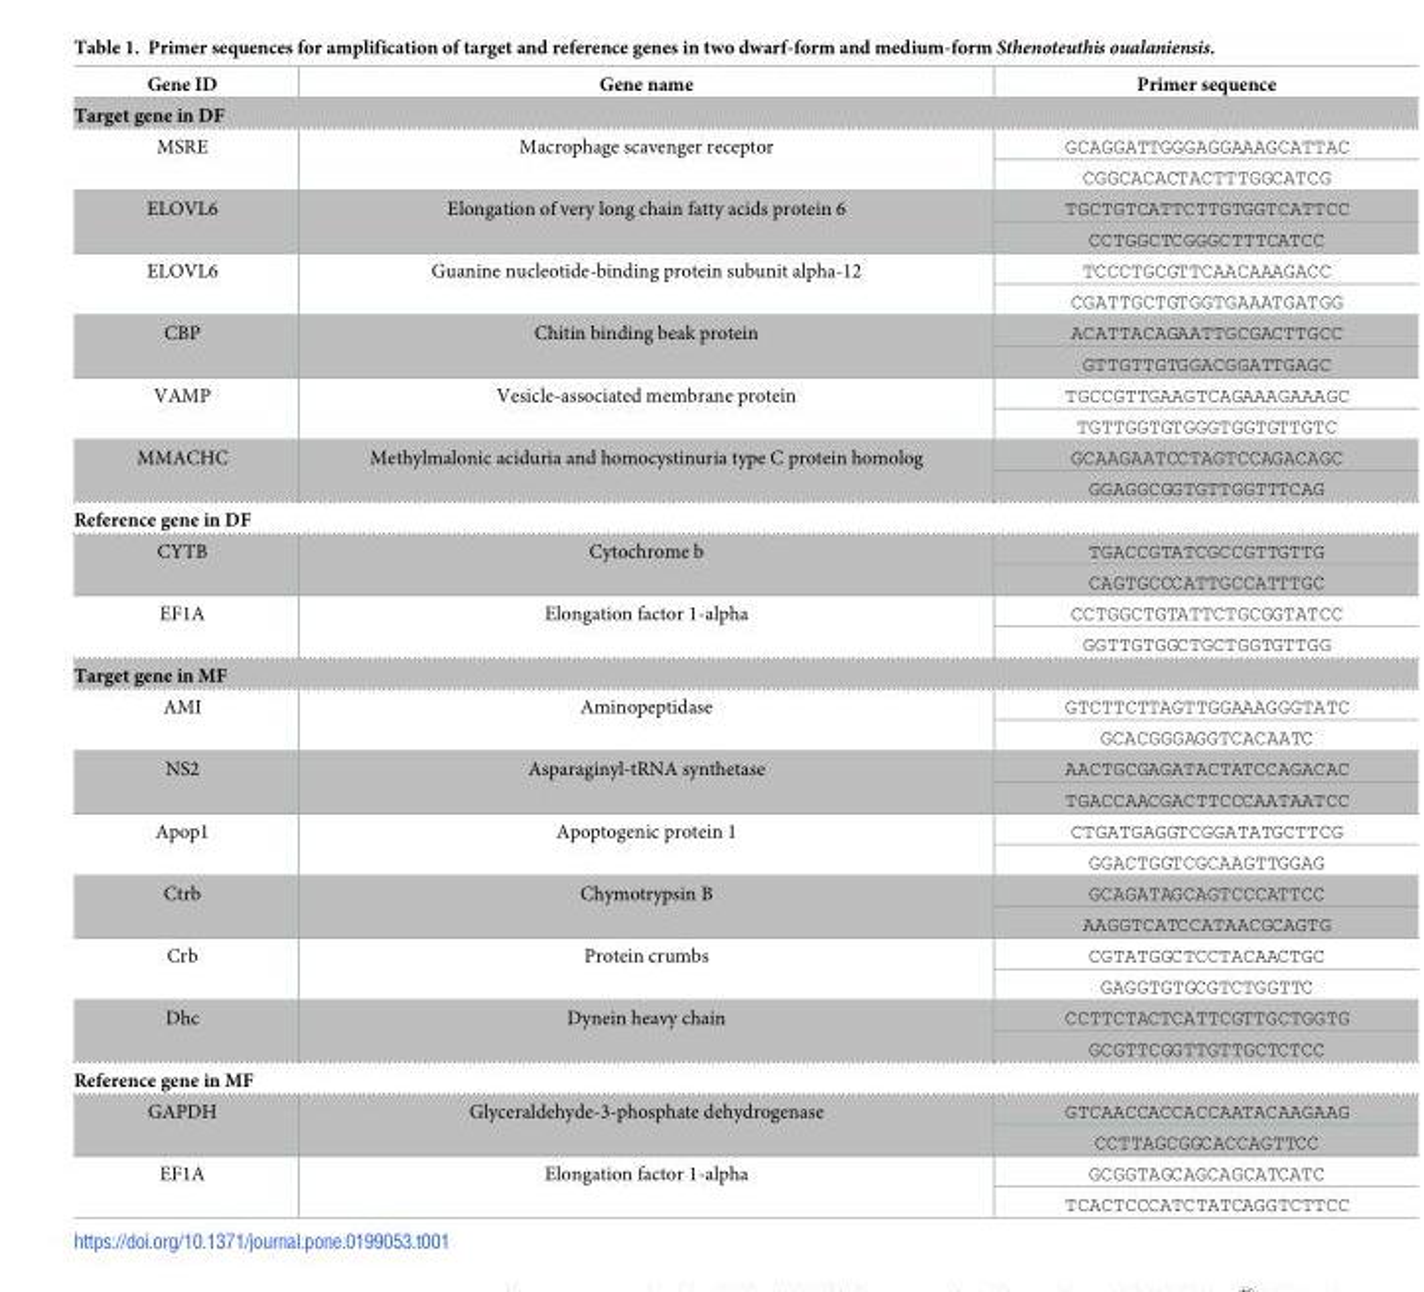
<table><thead><tr><td>Gene ID</td><td>Gene name</td><td>Primer sequence</td></tr></thead><tbody><tr><td colspan="3">Target gene in DF</td></tr><tr><td rowspan="2">MSRE</td><td rowspan="2">Macrophage scavenger receptor</td><td>GCAGGATTGGGAGGAAAGCATTAC</td></tr><tr><td>CGGCACACTACTTTGGCATCG</td></tr><tr><td rowspan="2">ELOVL6</td><td rowspan="2">Elongation of very long chain fatty acids protein 6</td><td>TGCTGTCATTCTTGTGGTCATTCC</td></tr><tr><td>CCTGGCTCGGGCTTTCATCC</td></tr><tr><td rowspan="2">ELOVL6</td><td rowspan="2">Guanine nucleotide-binding protein subunit alpha-12</td><td>TCCCTGCGTTCAACAAAGACC</td></tr><tr><td>CGATTGCTGTGGTGAAATGATGG</td></tr><tr><td rowspan="2">CBP</td><td rowspan="2">Chitin binding beak protein</td><td>ACATTACAGAATTGCGACTTGCC</td></tr><tr><td>GTTGTTGTGGACGGATTGAGC</td></tr><tr><td rowspan="2">VAMP</td><td rowspan="2">Vesicle-associated membrane protein</td><td>TGCCGTTGAAGTCAGAAAGAAAGC</td></tr><tr><td>TGTTGGTGTGGGTGGTGTTGTC</td></tr><tr><td rowspan="2">MMACHC</td><td rowspan="2">Methylmalonic aciduria and homocystinuria type C protein homolog</td><td>GCAAGAATCCTAGTCCAGACAGC</td></tr><tr><td>GGAGGCGGTGTTGGTTTCAG</td></tr><tr><td colspan="3">Reference gene in DF</td></tr><tr><td rowspan="2">CYTB</td><td rowspan="2">Cytochrome b</td><td>TGACCGTATCGCCGTTGTTG</td></tr><tr><td>CAGTGCCCATTGCCATTTGC</td></tr><tr><td rowspan="2">EF1A</td><td rowspan="2">Elongation factor 1-alpha</td><td>CCTGGCTGTATTCTGCGGTATCC</td></tr><tr><td>GGTTGTGGCTGCTGGTGTTGG</td></tr><tr><td colspan="3">Target gene in MF</td></tr><tr><td rowspan="2">AMI</td><td rowspan="2">Aminopeptidase</td><td>GTCTTCTTAGTTGGAAAGGGTATC</td></tr><tr><td>GCACGGGAGGTCACAATC</td></tr><tr><td rowspan="2">NS2</td><td rowspan="2">Asparaginyl-tRNA synthetase</td><td>AACTGCGAGATACTATCCAGACAC</td></tr><tr><td>TGACCAACGACTTCCCAATAATCC</td></tr><tr><td rowspan="2">Apop1</td><td rowspan="2">Apoptogenic protein 1</td><td>CTGATGAGGTCGGATATGCTTCG</td></tr><tr><td>GGACTGGTCGCAAGTTGGAG</td></tr><tr><td rowspan="2">Ctrb</td><td rowspan="2">Chymotrypsin B</td><td>GCAGATAGCAGTCCCATTCC</td></tr><tr><td>AAGGTCATCCATAACGCAGTG</td></tr><tr><td rowspan="2">Crb</td><td rowspan="2">Protein crumbs</td><td>CGTATGGCTCCTACAACTGC</td></tr><tr><td>GAGGTGTGCGTCTGGTTC</td></tr><tr><td rowspan="2">Dhc</td><td rowspan="2">Dynein heavy chain</td><td>CCTTCTACTCATTCGTTGCTGGTG</td></tr><tr><td>GCGTTCGGTTGTTGCTCTCC</td></tr><tr><td colspan="3">Reference gene in MF</td></tr><tr><td rowspan="2">GAPDH</td><td rowspan="2">Glyceraldehyde-3-phosphate dehydrogenase</td><td>GTCAACCACCACCAATACAAGAAG</td></tr><tr><td>CCTTAGCGGCACCAGTTCC</td></tr><tr><td rowspan="2">EF1A</td><td rowspan="2">Elongation factor 1-alpha</td><td>GCGGTAGCAGCAGCATCATC</td></tr><tr><td>TCACTCCCATCTATCAGGTCTTCC</td></tr></tbody></table>